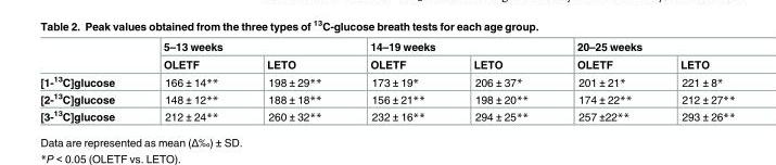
<table><thead><tr><td rowspan="2"></td><td colspan="2">5–13 weeks</td><td colspan="2">14–19 weeks</td><td colspan="2">20–25 weeks</td></tr><tr><td>OLETF</td><td>LETO</td><td>OLETF</td><td>LETO</td><td>OLETF</td><td>LETO</td></tr></thead><tbody><tr><td>[1-<sup>13</sup>C]glucose</td><td>166 ± 14**</td><td>198 ± 29**</td><td>173 ± 19*</td><td>206 ± 37*</td><td>201 ± 21*</td><td>221 ± 8*</td></tr><tr><td>[2-<sup>13</sup>C]glucose</td><td>148 ± 12**</td><td>188 ± 18**</td><td>156 ± 21**</td><td>198 ± 20**</td><td>174 ± 22**</td><td>212 ± 27**</td></tr><tr><td>[3-<sup>13</sup>C]glucose</td><td>212 ± 24**</td><td>260 ± 32**</td><td>232 ± 16**</td><td>294 ± 25**</td><td>257 ±22**</td><td>293 ± 26**</td></tr></tbody></table>